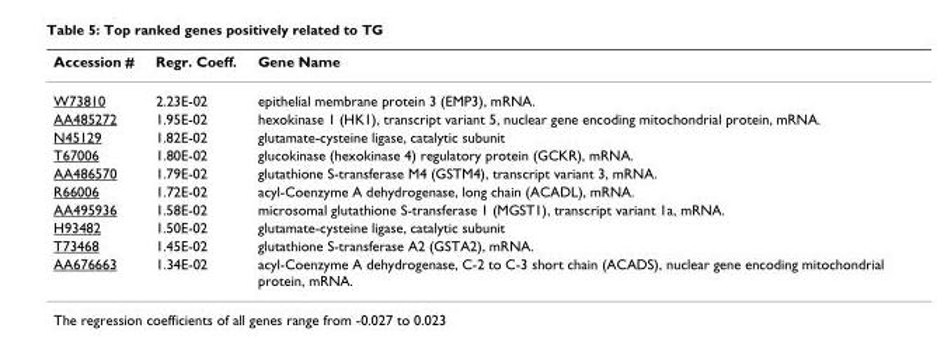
<table><thead><tr><td>Accession #</td><td>Regr. Coeff.</td><td>Gene Name</td></tr></thead><tbody><tr><td>W73810</td><td>2.23E-02</td><td>epithelial membrane protein 3 (EMP3), mRNA.</td></tr><tr><td>AA485272</td><td>1.95E-02</td><td>hexokinase 1 (HK1), transcript variant 5, nuclear gene encoding mitochondrial protein, mRNA.</td></tr><tr><td>N45129</td><td>1.82E-02</td><td>glutamate-cysteine ligase, catalytic subunit</td></tr><tr><td>T67006</td><td>1.80E-02</td><td>glucokinase (hexokinase 4) regulatory protein (GCKR), mRNA.</td></tr><tr><td>AA486570</td><td>1.79E-02</td><td>glutathione S-transferase M4 (GSTM4), transcript variant 3, mRNA.</td></tr><tr><td>R66006</td><td>1.72E-02</td><td>acyl-Coenzyme A dehydrogenase, long chain (ACADL), mRNA.</td></tr><tr><td>AA495936</td><td>1.58E-02</td><td>microsomal glutathione S-transferase 1 (MGST1), transcript variant 1a, mRNA.</td></tr><tr><td>H93482</td><td>1.50E-02</td><td>glutamate-cysteine ligase, catalytic subunit</td></tr><tr><td>T73468</td><td>1.45E-02</td><td>glutathione S-transferase A2 (GSTA2), mRNA.</td></tr><tr><td>AA676663</td><td>1.34E-02</td><td>acyl-Coenzyme A dehydrogenase, C-2 to C-3 short chain (ACADS), nuclear gene encoding mitochondrial protein, mRNA.</td></tr></tbody></table>